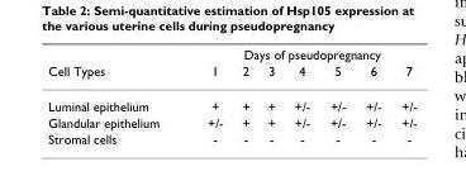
<table><thead><tr><td rowspan="2">Cell Types</td><td colspan="7">Days of pseudopregnancy</td></tr><tr><td>1</td><td>2</td><td>3</td><td>4</td><td>5</td><td>6</td><td>7</td></tr></thead><tbody><tr><td>Luminal epithelium</td><td>+</td><td>+</td><td>+</td><td>+/-</td><td>+/-</td><td>+/-</td><td>+/-</td></tr><tr><td>Glandular epithelium</td><td>+/-</td><td>+</td><td>+</td><td>+/-</td><td>+/-</td><td>+/-</td><td>+/-</td></tr><tr><td>Stromal cells</td><td>-</td><td>-</td><td>-</td><td>-</td><td>-</td><td>-</td><td>-</td></tr></tbody></table>